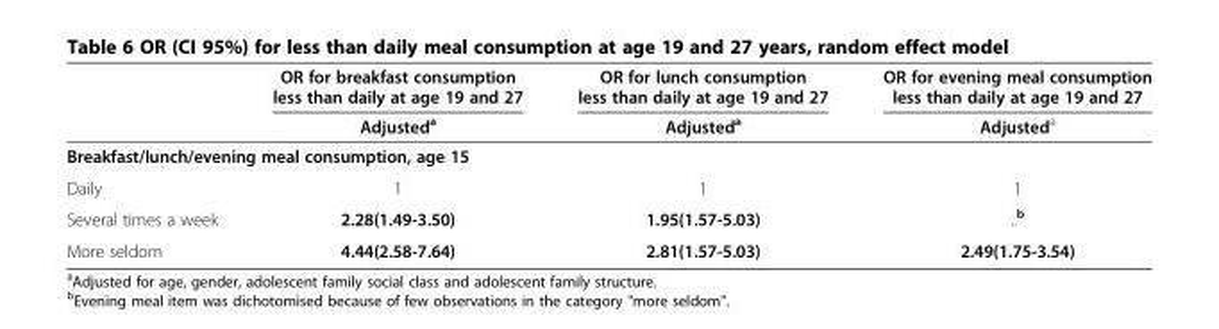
<table><thead><tr><td rowspan="2"></td><td rowspan="2">OR for breakfast consumption less than daily at age 19 and 27 Adjusteda</td><td rowspan="2">OR for lunch consumption less than daily at age 19 and 27 Adjusteda</td><td rowspan="2">OR for evening meal consumption less than daily at age 19 and 27 Adjusteda</td></tr><tr></tr></thead><tbody><tr><td colspan="4">Breakfast/lunch/evening meal consumption, age 15</td></tr><tr><td>Daily</td><td>1</td><td>1</td><td>1</td></tr><tr><td>Several times a week</td><td>2.28(1.49-3.50)</td><td>1.95(1.57-5.03)</td><td>..<sup>b</sup></td></tr><tr><td>More seldom</td><td>4.44(2.58-7.64)</td><td>2.81(1.57-5.03)</td><td>2.49(1.75-3.54)</td></tr></tbody></table>